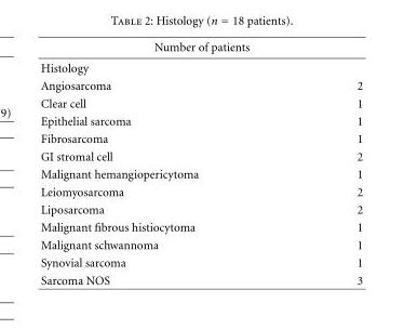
<table><tbody><tr><td colspan="2">Number of patients</td></tr><tr><td colspan="2">Histology</td></tr><tr><td>Angiosarcoma</td><td>2</td></tr><tr><td>Clear cell</td><td>1</td></tr><tr><td>Epithelial sarcoma</td><td>1</td></tr><tr><td>Fibrosarcoma</td><td>1</td></tr><tr><td>GI stromal cell</td><td>2</td></tr><tr><td>Malignant hemangiopericytoma</td><td>1</td></tr><tr><td>Leiomyosarcoma</td><td>2</td></tr><tr><td>Liposarcoma</td><td>2</td></tr><tr><td>Malignant fibrous histiocytoma</td><td>1</td></tr><tr><td>Malignant schwannoma</td><td>1</td></tr><tr><td>Synovial sarcoma</td><td>1</td></tr><tr><td>Sarcoma NOS</td><td>3</td></tr></tbody></table>